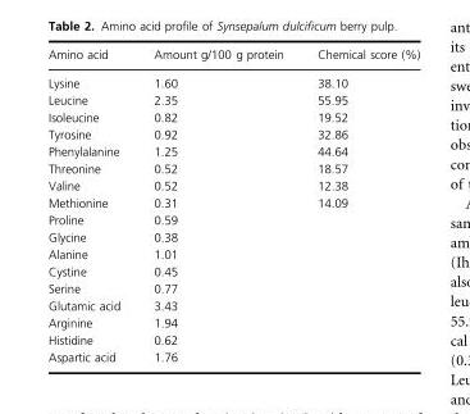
<table><thead><tr><td>Amino acid</td><td>Amount g/100 g protein</td><td>Chemical score (%)</td></tr></thead><tbody><tr><td>Lysine</td><td>1.60</td><td>38.10</td></tr><tr><td>Leucine</td><td>2.35</td><td>55.95</td></tr><tr><td>Isoleucine</td><td>0.82</td><td>19.52</td></tr><tr><td>Tyrosine</td><td>0.92</td><td>32.86</td></tr><tr><td>Phenylalanine</td><td>1.25</td><td>44.64</td></tr><tr><td>Threonine</td><td>0.52</td><td>18.57</td></tr><tr><td>Valine</td><td>0.52</td><td>12.38</td></tr><tr><td>Methionine</td><td>0.31</td><td>14.09</td></tr><tr><td>Proline</td><td>0.59</td><td></td></tr><tr><td>Glycine</td><td>0.38</td><td></td></tr><tr><td>Alanine</td><td>1.01</td><td></td></tr><tr><td>Cystine</td><td>0.45</td><td></td></tr><tr><td>Serine</td><td>0.77</td><td></td></tr><tr><td>Glutamic acid</td><td>3.43</td><td></td></tr><tr><td>Arginine</td><td>1.94</td><td></td></tr><tr><td>Histidine</td><td>0.62</td><td></td></tr><tr><td>Aspartic acid</td><td>1.76</td><td></td></tr></tbody></table>